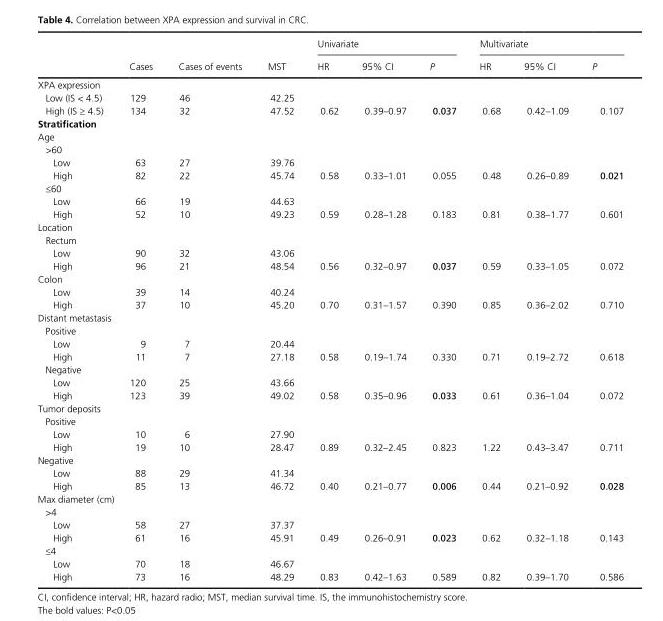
<table><thead><tr><td rowspan="2"></td><td rowspan="2">Cases</td><td rowspan="2">Cases of events</td><td rowspan="2">MST</td><td colspan="3">Univariate</td><td colspan="3">Multivariate</td></tr><tr><td>HR</td><td>95% CI</td><td>P</td><td>HR</td><td>95% CI</td><td>P</td></tr></thead><tbody><tr><td colspan="10">XPA expression</td></tr><tr><td>Low (IS &lt; 4.5)</td><td>129</td><td>46</td><td>42.25</td><td></td><td></td><td></td><td></td><td></td><td></td></tr><tr><td>High (IS ≥ 4.5)</td><td>134</td><td>32</td><td>47.52</td><td>0.62</td><td>0.39–0.97</td><td>0.037</td><td>0.68</td><td>0.42–1.09</td><td>0.107</td></tr><tr><td colspan="10">Stratification</td></tr><tr><td colspan="10">Age</td></tr><tr><td colspan="10">&gt;60</td></tr><tr><td>Low</td><td>63</td><td>27</td><td>39.76</td><td></td><td></td><td></td><td></td><td></td><td></td></tr><tr><td>High</td><td>82</td><td>22</td><td>45.74</td><td>0.58</td><td>0.33–1.01</td><td>0.055</td><td>0.48</td><td>0.26–0.89</td><td>0.021</td></tr><tr><td colspan="10">≤60</td></tr><tr><td>Low</td><td>66</td><td>19</td><td>44.63</td><td></td><td></td><td></td><td></td><td></td><td></td></tr><tr><td>High</td><td>52</td><td>10</td><td>49.23</td><td>0.59</td><td>0.28–1.28</td><td>0.183</td><td>0.81</td><td>0.38–1.77</td><td>0.601</td></tr><tr><td colspan="10">Location</td></tr><tr><td colspan="10">Rectum</td></tr><tr><td>Low</td><td>90</td><td>32</td><td>43.06</td><td></td><td></td><td></td><td></td><td></td><td></td></tr><tr><td>High</td><td>96</td><td>21</td><td>48.54</td><td>0.56</td><td>0.32–0.97</td><td>0.037</td><td>0.59</td><td>0.33–1.05</td><td>0.072</td></tr><tr><td colspan="10">Colon</td></tr><tr><td>Low</td><td>39</td><td>14</td><td>40.24</td><td></td><td></td><td></td><td></td><td></td><td></td></tr><tr><td>High</td><td>37</td><td>10</td><td>45.20</td><td>0.70</td><td>0.31–1.57</td><td>0.390</td><td>0.85</td><td>0.36–2.02</td><td>0.710</td></tr><tr><td colspan="10">Distant metastasis</td></tr><tr><td colspan="10">Positive</td></tr><tr><td>Low</td><td>9</td><td>7</td><td>20.44</td><td></td><td></td><td></td><td></td><td></td><td></td></tr><tr><td>High</td><td>11</td><td>7</td><td>27.18</td><td>0.58</td><td>0.19–1.74</td><td>0.330</td><td>0.71</td><td>0.19–2.72</td><td>0.618</td></tr><tr><td colspan="10">Negative</td></tr><tr><td>Low</td><td>120</td><td>25</td><td>43.66</td><td></td><td></td><td></td><td></td><td></td><td></td></tr><tr><td>High</td><td>123</td><td>39</td><td>49.02</td><td>0.58</td><td>0.35–0.96</td><td>0.033</td><td>0.61</td><td>0.36–1.04</td><td>0.072</td></tr><tr><td colspan="10">Tumor deposits</td></tr><tr><td colspan="10">Positive</td></tr><tr><td>Low</td><td>10</td><td>6</td><td>27.90</td><td></td><td></td><td></td><td></td><td></td><td></td></tr><tr><td>High</td><td>19</td><td>10</td><td>28.47</td><td>0.89</td><td>0.32–2.45</td><td>0.823</td><td>1.22</td><td>0.43–3.47</td><td>0.711</td></tr><tr><td colspan="10">Negative</td></tr><tr><td>Low</td><td>88</td><td>29</td><td>41.34</td><td></td><td></td><td></td><td></td><td></td><td></td></tr><tr><td>High</td><td>85</td><td>13</td><td>46.72</td><td>0.40</td><td>0.21–0.77</td><td>0.006</td><td>0.44</td><td>0.21–0.92</td><td>0.028</td></tr><tr><td colspan="10">Max diameter (cm)</td></tr><tr><td colspan="10">&gt;4</td></tr><tr><td>Low</td><td>58</td><td>27</td><td>37.37</td><td></td><td></td><td></td><td></td><td></td><td></td></tr><tr><td>High</td><td>61</td><td>16</td><td>45.91</td><td>0.49</td><td>0.26–0.91</td><td>0.023</td><td>0.62</td><td>0.32–1.18</td><td>0.143</td></tr><tr><td colspan="10">≤4</td></tr><tr><td>Low</td><td>70</td><td>18</td><td>46.67</td><td></td><td></td><td></td><td></td><td></td><td></td></tr><tr><td>High</td><td>73</td><td>16</td><td>48.29</td><td>0.83</td><td>0.42–1.63</td><td>0.589</td><td>0.82</td><td>0.39–1.70</td><td>0.586</td></tr></tbody></table>